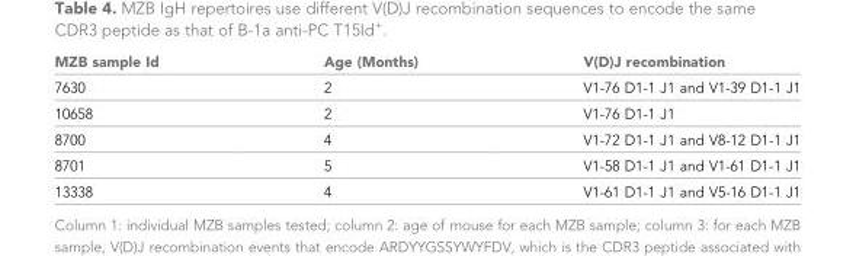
<table><thead><tr><td>MZB sample Id</td><td>Age (Months)</td><td>V(D)J recombination</td></tr></thead><tbody><tr><td>7630</td><td>2</td><td>V1-76 D1-1 J1 and V1-39 D1-1 J1</td></tr><tr><td>10658</td><td>2</td><td>V1-76 D1-1 J1</td></tr><tr><td>8700</td><td>4</td><td>V1-72 D1-1 J1 and V8-12 D1-1 J1</td></tr><tr><td>8701</td><td>5</td><td>V1-58 D1-1 J1 and V1-61 D1-1 J1</td></tr><tr><td>13338</td><td>4</td><td>V1-61 D1-1 J1 and V5-16 D1-1 J1</td></tr></tbody></table>